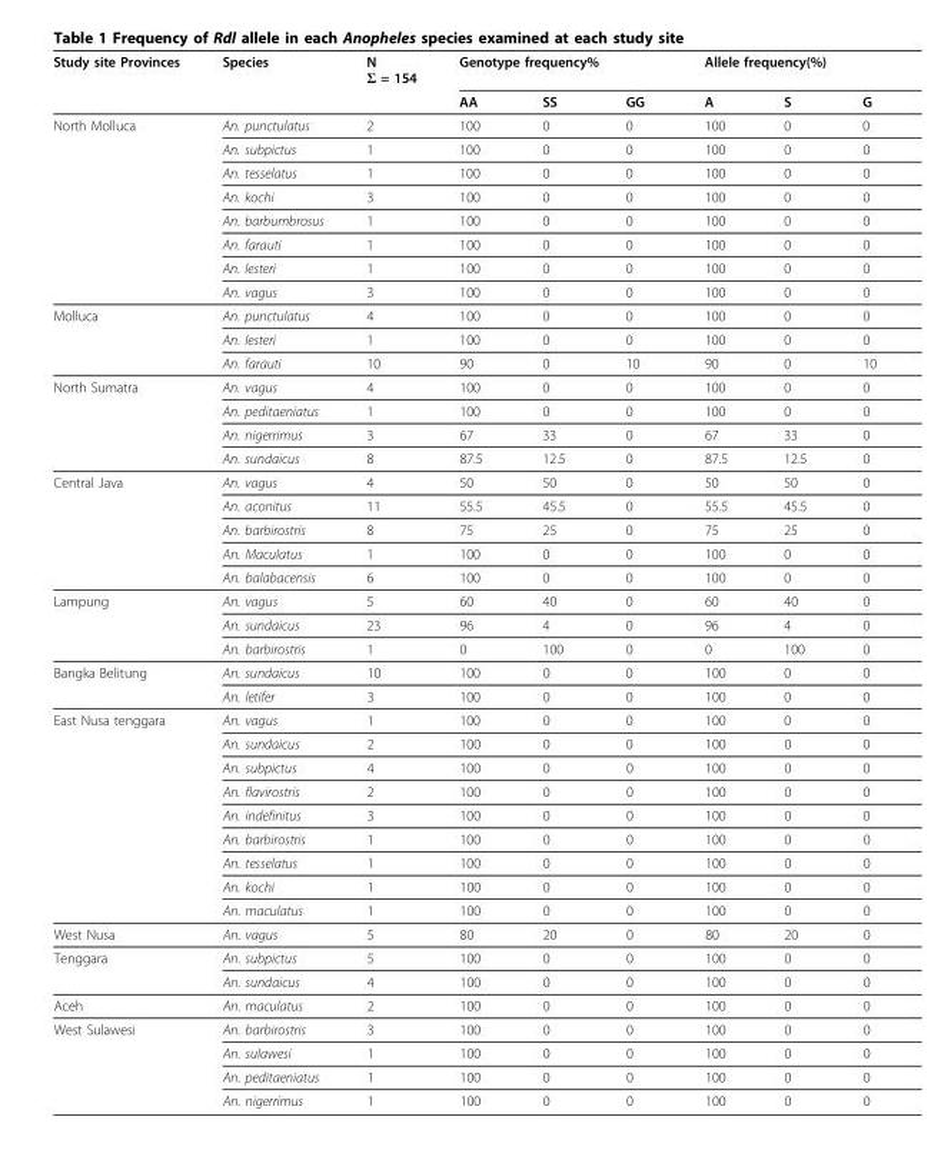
<table><thead><tr><td rowspan="2">Study site Provinces</td><td rowspan="2">Species</td><td rowspan="2">N Σ = 154</td><td colspan="3">Genotype frequency%</td><td colspan="3">Allele frequency(%)</td></tr><tr><td>AA</td><td>SS</td><td>GG</td><td>A</td><td>S</td><td>G</td></tr></thead><tbody><tr><td rowspan="8">North Molluca</td><td>An. punctulatus</td><td>2</td><td>100</td><td>0</td><td>0</td><td>100</td><td>0</td><td>0</td></tr><tr><td>An. subpictus</td><td>1</td><td>100</td><td>0</td><td>0</td><td>100</td><td>0</td><td>0</td></tr><tr><td>An. tesselatus</td><td>1</td><td>100</td><td>0</td><td>0</td><td>100</td><td>0</td><td>0</td></tr><tr><td>An. kochi</td><td>3</td><td>100</td><td>0</td><td>0</td><td>100</td><td>0</td><td>0</td></tr><tr><td>An. barbumbrosus</td><td>1</td><td>100</td><td>0</td><td>0</td><td>100</td><td>0</td><td>0</td></tr><tr><td>An. farauti</td><td>1</td><td>100</td><td>0</td><td>0</td><td>100</td><td>0</td><td>0</td></tr><tr><td>An. lesteri</td><td>1</td><td>100</td><td>0</td><td>0</td><td>100</td><td>0</td><td>0</td></tr><tr><td>An. vagus</td><td>3</td><td>100</td><td>0</td><td>0</td><td>100</td><td>0</td><td>0</td></tr><tr><td rowspan="3">Molluca</td><td>An. punctulatus</td><td>4</td><td>100</td><td>0</td><td>0</td><td>100</td><td>0</td><td>0</td></tr><tr><td>An. lesteri</td><td>1</td><td>100</td><td>0</td><td>0</td><td>100</td><td>0</td><td>0</td></tr><tr><td>An. farauti</td><td>10</td><td>90</td><td>0</td><td>10</td><td>90</td><td>0</td><td>10</td></tr><tr><td rowspan="4">North Sumatra</td><td>An. vagus</td><td>4</td><td>100</td><td>0</td><td>0</td><td>100</td><td>0</td><td>0</td></tr><tr><td>An. peditaeniatus</td><td>1</td><td>100</td><td>0</td><td>0</td><td>100</td><td>0</td><td>0</td></tr><tr><td>An. nigerrimus</td><td>3</td><td>67</td><td>33</td><td>0</td><td>67</td><td>33</td><td>0</td></tr><tr><td>An. sundaicus</td><td>8</td><td>87.5</td><td>12.5</td><td>0</td><td>87.5</td><td>12.5</td><td>0</td></tr><tr><td rowspan="5">Central Java</td><td>An. vagus</td><td>4</td><td>50</td><td>50</td><td>0</td><td>50</td><td>50</td><td>0</td></tr><tr><td>An. aconitus</td><td>11</td><td>55.5</td><td>45.5</td><td>0</td><td>55.5</td><td>45.5</td><td>0</td></tr><tr><td>An. barbirostris</td><td>8</td><td>75</td><td>25</td><td>0</td><td>75</td><td>25</td><td>0</td></tr><tr><td>An. Maculatus</td><td>1</td><td>100</td><td>0</td><td>0</td><td>100</td><td>0</td><td>0</td></tr><tr><td>An. balabacensis</td><td>6</td><td>100</td><td>0</td><td>0</td><td>100</td><td>0</td><td>0</td></tr><tr><td rowspan="3">Lampung</td><td>An. vagus</td><td>5</td><td>60</td><td>40</td><td>0</td><td>60</td><td>40</td><td>0</td></tr><tr><td>An. sundaicus</td><td>23</td><td>96</td><td>4</td><td>0</td><td>96</td><td>4</td><td>0</td></tr><tr><td>An. barbirostris</td><td>1</td><td>0</td><td>100</td><td>0</td><td>0</td><td>100</td><td>0</td></tr><tr><td rowspan="2">Bangka Belitung</td><td>An. sundaicus</td><td>10</td><td>100</td><td>0</td><td>0</td><td>100</td><td>0</td><td>0</td></tr><tr><td>An. letifer</td><td>3</td><td>100</td><td>0</td><td>0</td><td>100</td><td>0</td><td>0</td></tr><tr><td rowspan="9">East Nusa tenggara</td><td>An. vagus</td><td>1</td><td>100</td><td>0</td><td>0</td><td>100</td><td>0</td><td>0</td></tr><tr><td>An. sundaicus</td><td>2</td><td>100</td><td>0</td><td>0</td><td>100</td><td>0</td><td>0</td></tr><tr><td>An. subpictus</td><td>4</td><td>100</td><td>0</td><td>0</td><td>100</td><td>0</td><td>0</td></tr><tr><td>An. flavirostris</td><td>2</td><td>100</td><td>0</td><td>0</td><td>100</td><td>0</td><td>0</td></tr><tr><td>An. indefinitus</td><td>3</td><td>100</td><td>0</td><td>0</td><td>100</td><td>0</td><td>0</td></tr><tr><td>An. barbirostris</td><td>1</td><td>100</td><td>0</td><td>0</td><td>100</td><td>0</td><td>0</td></tr><tr><td>An. tesselatus</td><td>1</td><td>100</td><td>0</td><td>0</td><td>100</td><td>0</td><td>0</td></tr><tr><td>An. kochi</td><td>1</td><td>100</td><td>0</td><td>0</td><td>100</td><td>0</td><td>0</td></tr><tr><td>An. maculatus</td><td>1</td><td>100</td><td>0</td><td>0</td><td>100</td><td>0</td><td>0</td></tr><tr><td>West Nusa</td><td>An. vagus</td><td>5</td><td>80</td><td>20</td><td>0</td><td>80</td><td>20</td><td>0</td></tr><tr><td rowspan="2">Tenggara</td><td>An. subpictus</td><td>5</td><td>100</td><td>0</td><td>0</td><td>100</td><td>0</td><td>0</td></tr><tr><td>An. sundaicus</td><td>4</td><td>100</td><td>0</td><td>0</td><td>100</td><td>0</td><td>0</td></tr><tr><td>Aceh</td><td>An. maculatus</td><td>2</td><td>100</td><td>0</td><td>0</td><td>100</td><td>0</td><td>0</td></tr><tr><td rowspan="4">West Sulawesi</td><td>An. barbirostris</td><td>3</td><td>100</td><td>0</td><td>0</td><td>100</td><td>0</td><td>0</td></tr><tr><td>An. sulawesi</td><td>1</td><td>100</td><td>0</td><td>0</td><td>100</td><td>0</td><td>0</td></tr><tr><td>An. peditaeniatus</td><td>1</td><td>100</td><td>0</td><td>0</td><td>100</td><td>0</td><td>0</td></tr><tr><td>An. nigerrimus</td><td>1</td><td>100</td><td>0</td><td>0</td><td>100</td><td>0</td><td>0</td></tr></tbody></table>